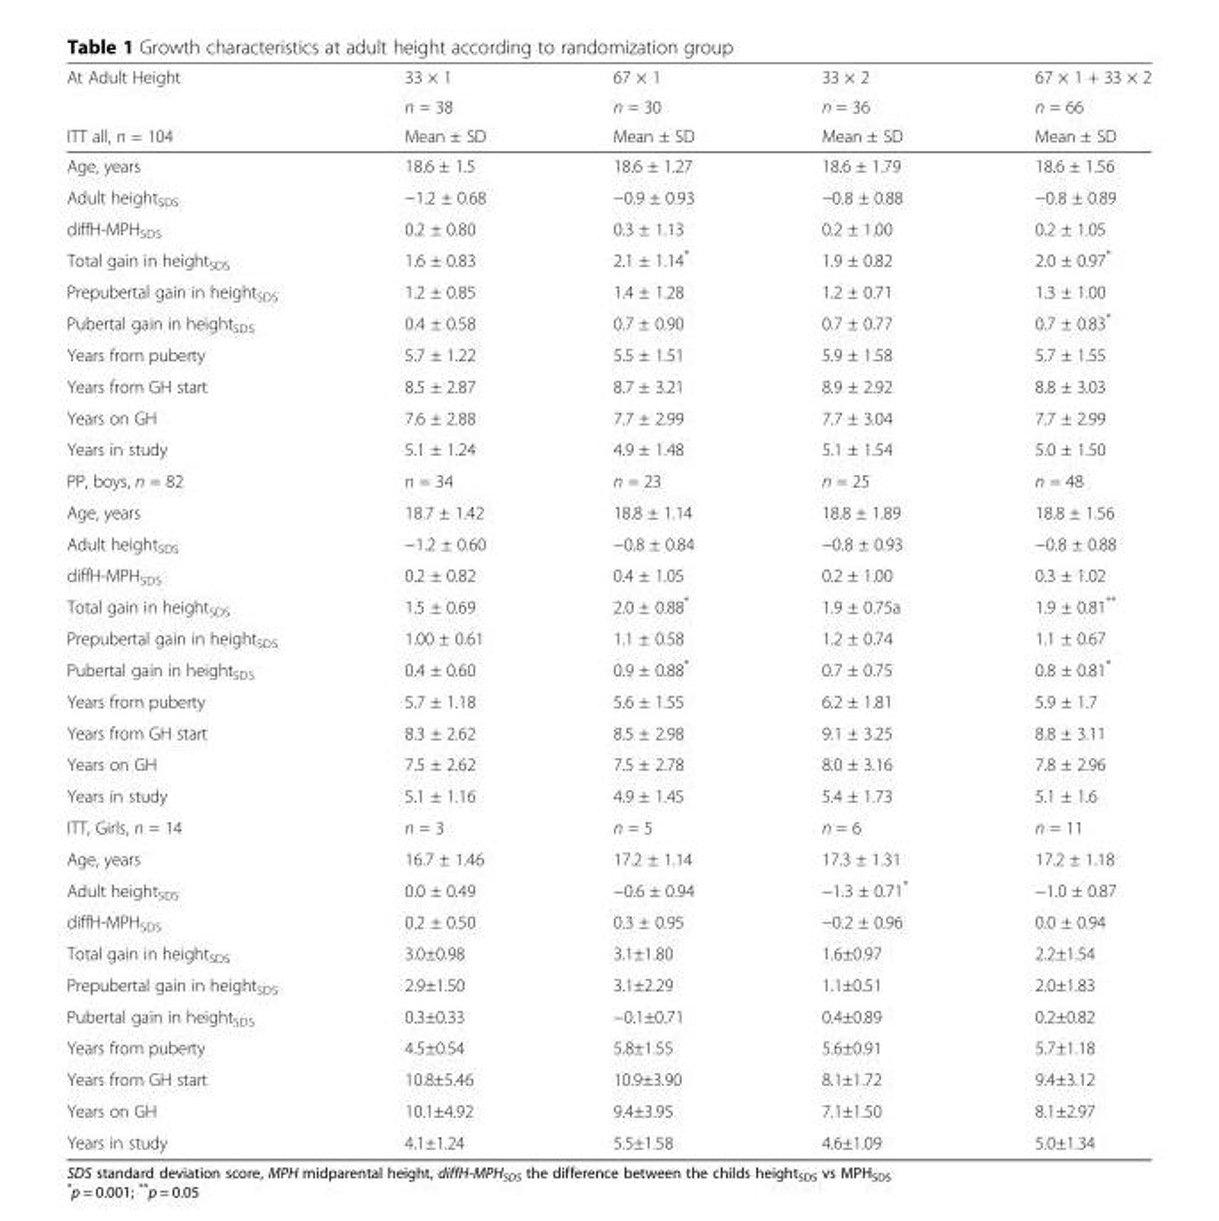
<table><thead><tr><td rowspan="3">At Adult Height ITT all, n = 104</td><td rowspan="3">33 × 1 n = 38 Mean ± SD</td><td rowspan="3">67 × 1 n = 30 Mean ± SD</td><td rowspan="3">33 × 2 n = 36 Mean ± SD</td><td rowspan="3">67 × 1 + 33 × 2 n = 66 Mean ± SD</td></tr><tr></tr><tr></tr></thead><tbody><tr><td>Age, years</td><td>18.6 ± 1.5</td><td>18.6 ± 1.27</td><td>18.6 ± 1.79</td><td>18.6 ± 1.56</td></tr><tr><td>Adult height<sub>SDS</sub></td><td>−1.2 ± 0.68</td><td>−0.9 ± 0.93</td><td>−0.8 ± 0.88</td><td>−0.8 ± 0.89</td></tr><tr><td>diffH-MPH<sub>SDS</sub></td><td>0.2 ± 0.80</td><td>0.3 ± 1.13</td><td>0.2 ± 1.00</td><td>0.2 ± 1.05</td></tr><tr><td>Total gain in height<sub>SDS</sub></td><td>1.6 ± 0.83</td><td>2.1 ± 1.14*</td><td>1.9 ± 0.82</td><td>2.0 ± 0.97*</td></tr><tr><td>Prepubertal gain in height<sub>SDS</sub></td><td>1.2 ± 0.85</td><td>1.4 ± 1.28</td><td>1.2 ± 0.71</td><td>1.3 ± 1.00</td></tr><tr><td>Pubertal gain in height<sub>SDS</sub></td><td>0.4 ± 0.58</td><td>0.7 ± 0.90</td><td>0.7 ± 0.77</td><td>0.7 ± 0.83*</td></tr><tr><td>Years from puberty</td><td>5.7 ± 1.22</td><td>5.5 ± 1.51</td><td>5.9 ± 1.58</td><td>5.7 ± 1.55</td></tr><tr><td>Years from GH start</td><td>8.5 ± 2.87</td><td>8.7 ± 3.21</td><td>8.9 ± 2.92</td><td>8.8 ± 3.03</td></tr><tr><td>Years on GH</td><td>7.6 ± 2.88</td><td>7.7 ± 2.99</td><td>7.7 ± 3.04</td><td>7.7 ± 2.99</td></tr><tr><td>Years in study</td><td>5.1 ± 1.24</td><td>4.9 ± 1.48</td><td>5.1 ± 1.54</td><td>5.0 ± 1.50</td></tr><tr><td>PP, boys, n = 82</td><td>n = 34</td><td>n = 23</td><td>n = 25</td><td>n = 48</td></tr><tr><td>Age, years</td><td>18.7 ± 1.42</td><td>18.8 ± 1.14</td><td>18.8 ± 1.89</td><td>18.8 ± 1.56</td></tr><tr><td>Adult height<sub>SDS</sub></td><td>−1.2 ± 0.60</td><td>−0.8 ± 0.84</td><td>−0.8 ± 0.93</td><td>−0.8 ± 0.88</td></tr><tr><td>diffH-MPH<sub>SDS</sub></td><td>0.2 ± 0.82</td><td>0.4 ± 1.05</td><td>0.2 ± 1.00</td><td>0.3 ± 1.02</td></tr><tr><td>Total gain in height<sub>SDS</sub></td><td>1.5 ± 0.69</td><td>2.0 ± 0.88*</td><td>1.9 ± 0.75a</td><td>1.9 ± 0.81**</td></tr><tr><td>Prepubertal gain in height<sub>SDS</sub></td><td>1.00 ± 0.61</td><td>1.1 ± 0.58</td><td>1.2 ± 0.74</td><td>1.1 ± 0.67</td></tr><tr><td>Pubertal gain in height<sub>SDS</sub></td><td>0.4 ± 0.60</td><td>0.9 ± 0.88*</td><td>0.7 ± 0.75</td><td>0.8 ± 0.81*</td></tr><tr><td>Years from puberty</td><td>5.7 ± 1.18</td><td>5.6 ± 1.55</td><td>6.2 ± 1.81</td><td>5.9 ± 1.7</td></tr><tr><td>Years from GH start</td><td>8.3 ± 2.62</td><td>8.5 ± 2.98</td><td>9.1 ± 3.25</td><td>8.8 ± 3.11</td></tr><tr><td>Years on GH</td><td>7.5 ± 2.62</td><td>7.5 ± 2.78</td><td>8.0 ± 3.16</td><td>7.8 ± 2.96</td></tr><tr><td>Years in study</td><td>5.1 ± 1.16</td><td>4.9 ± 1.45</td><td>5.4 ± 1.73</td><td>5.1 ± 1.6</td></tr><tr><td>ITT, Girls, n = 14</td><td>n = 3</td><td>n = 5</td><td>n = 6</td><td>n = 11</td></tr><tr><td>Age, years</td><td>16.7 ± 1.46</td><td>17.2 ± 1.14</td><td>17.3 ± 1.31</td><td>17.2 ± 1.18</td></tr><tr><td>Adult height<sub>SDS</sub></td><td>0.0 ± 0.49</td><td>−0.6 ± 0.94</td><td>−1.3 ± 0.71*</td><td>−1.0 ± 0.87</td></tr><tr><td>diffH-MPH<sub>SDS</sub></td><td>0.2 ± 0.50</td><td>0.3 ± 0.95</td><td>−0.2 ± 0.96</td><td>0.0 ± 0.94</td></tr><tr><td>Total gain in height<sub>SDS</sub></td><td>3.0±0.98</td><td>3.1±1.80</td><td>1.6±0.97</td><td>2.2±1.54</td></tr><tr><td>Prepubertal gain in height<sub>SDS</sub></td><td>2.9±1.50</td><td>3.1±2.29</td><td>1.1±0.51</td><td>2.0±1.83</td></tr><tr><td>Pubertal gain in height<sub>SDS</sub></td><td>0.3±0.33</td><td>−0.1±0.71</td><td>0.4±0.89</td><td>0.2±0.82</td></tr><tr><td>Years from puberty</td><td>4.5±0.54</td><td>5.8±1.55</td><td>5.6±0.91</td><td>5.7±1.18</td></tr><tr><td>Years from GH start</td><td>10.8±5.46</td><td>10.9±3.90</td><td>8.1±1.72</td><td>9.4±3.12</td></tr><tr><td>Years on GH</td><td>10.1±4.92</td><td>9.4±3.95</td><td>7.1±1.50</td><td>8.1±2.97</td></tr><tr><td>Years in study</td><td>4.1±1.24</td><td>5.5±1.58</td><td>4.6±1.09</td><td>5.0±1.34</td></tr></tbody></table>